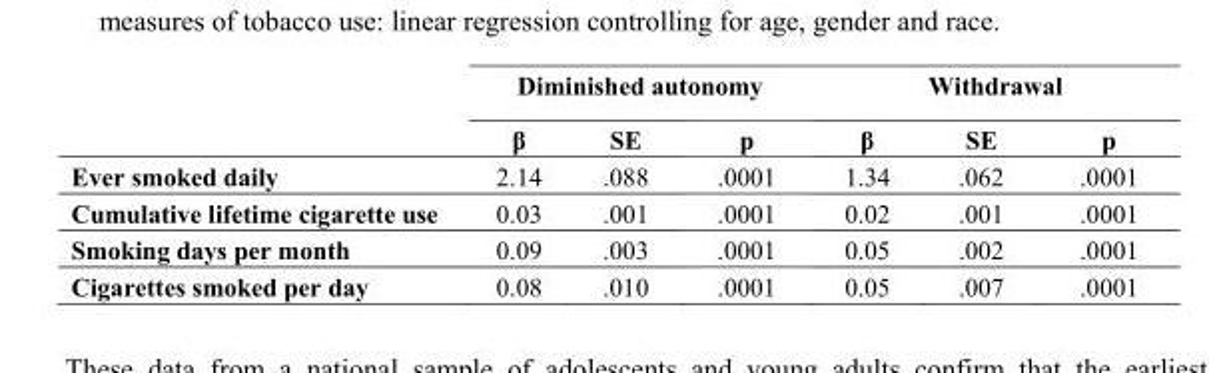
<table><thead><tr><td rowspan="2"></td><td colspan="3">Diminished autonomy</td><td colspan="3">Withdrawal</td></tr><tr><td>β</td><td>SE</td><td>p</td><td>β</td><td>SE</td><td>p</td></tr></thead><tbody><tr><td>Ever smoked daily</td><td>2.14</td><td>.088</td><td>.0001</td><td>1.34</td><td>.062</td><td>.0001</td></tr><tr><td>Cumulative lifetime cigarette use</td><td>0.03</td><td>.001</td><td>.0001</td><td>0.02</td><td>.001</td><td>.0001</td></tr><tr><td>Smoking days per month</td><td>0.09</td><td>.003</td><td>.0001</td><td>0.05</td><td>.002</td><td>.0001</td></tr><tr><td>Cigarettes smoked per day</td><td>0.08</td><td>.010</td><td>.0001</td><td>0.05</td><td>.007</td><td>.0001</td></tr></tbody></table>